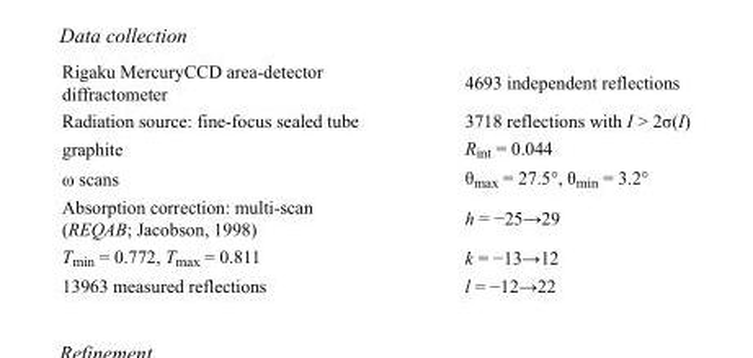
<table><tbody><tr><td>Rigaku MercuryCCD area-detector diffractometer</td><td>4693 independent reflections</td></tr><tr><td>Radiation source: fine-focus sealed tube</td><td>3718 reflections with I &gt; 2σ(I)</td></tr><tr><td>graphite</td><td>R<sub>int</sub> = 0.044</td></tr><tr><td>ω scans</td><td>θ<sub>max</sub> = 27.5°, θ<sub>min</sub> = 3.2°</td></tr><tr><td>Absorption correction: multi-scan (REQAB; Jacobson, 1998)</td><td>h = −25→29</td></tr><tr><td>T<sub>min</sub> = 0.772, T<sub>max</sub> = 0.811</td><td>k = −13→12</td></tr><tr><td>13963 measured reflections</td><td>l = −12→22</td></tr></tbody></table>